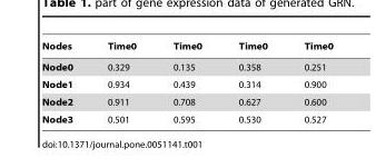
<table><thead><tr><td>Nodes</td><td>Time0</td><td>Time0</td><td>Time0</td><td>Time0</td></tr></thead><tbody><tr><td>Node0</td><td>0.329</td><td>0.135</td><td>0.358</td><td>0.251</td></tr><tr><td>Node1</td><td>0.934</td><td>0.439</td><td>0.314</td><td>0.900</td></tr><tr><td>Node2</td><td>0.911</td><td>0.708</td><td>0.627</td><td>0.600</td></tr><tr><td>Node3</td><td>0.501</td><td>0.595</td><td>0.530</td><td>0.527</td></tr></tbody></table>